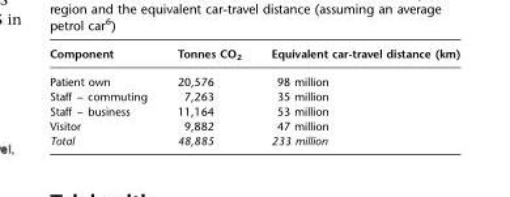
<table><thead><tr><td>Component</td><td>Tonnes CO<sub>2</sub></td><td>Equivalent car-travel distance (km)</td></tr></thead><tbody><tr><td>Patient own</td><td>20,576</td><td>98 million</td></tr><tr><td>Staff – commuting</td><td>7,263</td><td>35 million</td></tr><tr><td>Staff – business</td><td>11,164</td><td>53 million</td></tr><tr><td>Visitor</td><td>9,882</td><td>47 million</td></tr><tr><td>Total</td><td>48,885</td><td>233 million</td></tr></tbody></table>